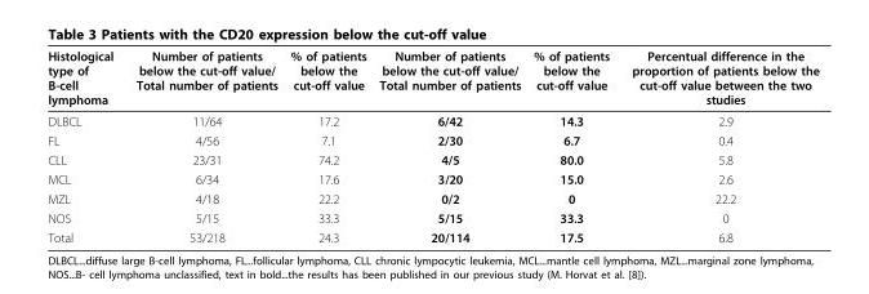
<table><thead><tr><td>Histological type of B-cell lymphoma</td><td>Number of patients below the cut-off value/ Total number of patients</td><td>% of patients below the cut-off value</td><td>Number of patients below the cut-off value/ Total number of patients</td><td>% of patients below the cut-off value</td><td>Percentual difference in the proportion of patients below the cut-off value between the two studies</td></tr></thead><tbody><tr><td>DLBCL</td><td>11/64</td><td>17.2</td><td>6/42</td><td>14.3</td><td>2.9</td></tr><tr><td>FL</td><td>4/56</td><td>7.1</td><td>2/30</td><td>6.7</td><td>0.4</td></tr><tr><td>CLL</td><td>23/31</td><td>74.2</td><td>4/5</td><td>80.0</td><td>5.8</td></tr><tr><td>MCL</td><td>6/34</td><td>17.6</td><td>3/20</td><td>15.0</td><td>2.6</td></tr><tr><td>MZL</td><td>4/18</td><td>22.2</td><td>0/2</td><td>0</td><td>22.2</td></tr><tr><td>NOS</td><td>5/15</td><td>33.3</td><td>5/15</td><td>33.3</td><td>0</td></tr><tr><td>Total</td><td>53/218</td><td>24.3</td><td>20/114</td><td>17.5</td><td>6.8</td></tr></tbody></table>